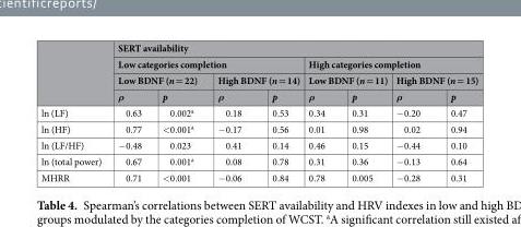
<table><thead><tr><td rowspan="4"></td><td colspan="8">SERT availability</td></tr><tr><td colspan="4">Low categories completion</td><td colspan="4">High categories completion</td></tr><tr><td colspan="2">Low BDNF (n = 22)</td><td colspan="2">High BDNF (n = 14)</td><td colspan="2">Low BDNF (n = 11)</td><td colspan="2">High BDNF (n = 15)</td></tr><tr><td>ρ</td><td>p</td><td>ρ</td><td>p</td><td>ρ</td><td>p</td><td>ρ</td><td>p</td></tr></thead><tbody><tr><td>ln (LF)</td><td>0.63</td><td>0.002<sup>a</sup></td><td>0.18</td><td>0.53</td><td>0.34</td><td>0.31</td><td>−0.20</td><td>0.47</td></tr><tr><td>ln (HF)</td><td>0.77</td><td>&lt;0.001<sup>a</sup></td><td>−0.17</td><td>0.56</td><td>0.01</td><td>0.98</td><td>0.02</td><td>0.94</td></tr><tr><td>ln (LF/HF)</td><td>−0.48</td><td>0.023</td><td>0.41</td><td>0.14</td><td>0.46</td><td>0.15</td><td>−0.44</td><td>0.10</td></tr><tr><td>ln (total power)</td><td>0.67</td><td>0.001<sup>a</sup></td><td>0.08</td><td>0.78</td><td>0.31</td><td>0.36</td><td>−0.13</td><td>0.64</td></tr><tr><td>MHRR</td><td>0.71</td><td>&lt;0.001</td><td>−0.06</td><td>0.84</td><td>0.78</td><td>0.005</td><td>−0.28</td><td>0.31</td></tr></tbody></table>